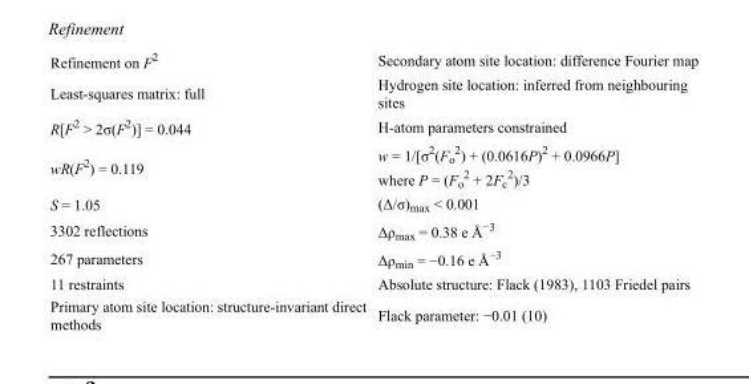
<table><tbody><tr><td>Refinement on F<sup>2</sup></td><td>Secondary atom site location: difference Fourier map</td></tr><tr><td>Least-squares matrix: full</td><td>Hydrogen site location: inferred from neighbouring sites</td></tr><tr><td>R[F<sup>2</sup> &gt; 2σ(F<sup>2</sup>)] = 0.044</td><td>H-atom parameters constrained</td></tr><tr><td>wR(F<sup>2</sup>) = 0.119</td><td>w = 1/[σ<sup>2</sup>(F<sub>o</sub> <sup>2</sup>) + (0.0616P)<sup>2</sup> + 0.0966P] where P = (F<sub>o</sub> <sup>2</sup> + 2F<sub>c</sub> <sup>2</sup>)/3</td></tr><tr><td>S = 1.05</td><td>(Δ/σ)<sub>max</sub> &lt; 0.001</td></tr><tr><td>3302 reflections</td><td>Δρ<sub>max</sub> = 0.38 e Å<sup>−3</sup></td></tr><tr><td>267 parameters</td><td>Δρ<sub>min</sub> = −0.16 e Å<sup>−3</sup></td></tr><tr><td>11 restraints</td><td>Absolute structure: Flack (1983), 1103 Friedel pairs</td></tr><tr><td>Primary atom site location: structure-invariant direct methods</td><td>Flack parameter: −0.01 (10)</td></tr></tbody></table>